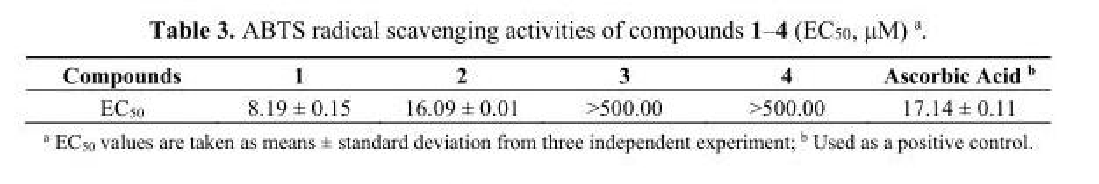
<table><thead><tr><td>Compounds</td><td>1</td><td>2</td><td>3</td><td>4</td><td>Ascorbic Acid <sup>b</sup></td></tr></thead><tbody><tr><td>EC<sub>50</sub></td><td>8.19 ± 0.15</td><td>16.09 ± 0.01</td><td>&gt;500.00</td><td>&gt;500.00</td><td>17.14 ± 0.11</td></tr></tbody></table>